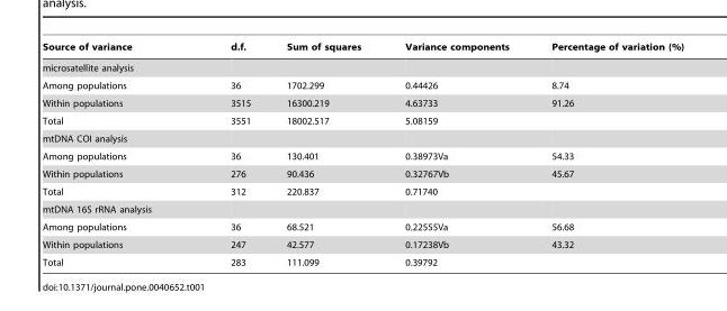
<table><thead><tr><td>Source of variance</td><td>d.f.</td><td>Sum of squares</td><td>Variance components</td><td>Percentage of variation (%)</td></tr></thead><tbody><tr><td colspan="5">microsatellite analysis</td></tr><tr><td>Among populations</td><td>36</td><td>1702.299</td><td>0.44426</td><td>8.74</td></tr><tr><td>Within populations</td><td>3515</td><td>16300.219</td><td>4.63733</td><td>91.26</td></tr><tr><td>Total</td><td>3551</td><td>18002.517</td><td>5.08159</td><td></td></tr><tr><td colspan="5">mtDNA COI analysis</td></tr><tr><td>Among populations</td><td>36</td><td>130.401</td><td>0.38973Va</td><td>54.33</td></tr><tr><td>Within populations</td><td>276</td><td>90.436</td><td>0.32767Vb</td><td>45.67</td></tr><tr><td>Total</td><td>312</td><td>220.837</td><td>0.71740</td><td></td></tr><tr><td colspan="5">mtDNA 16S rRNA analysis</td></tr><tr><td>Among populations</td><td>36</td><td>68.521</td><td>0.22555Va</td><td>56.68</td></tr><tr><td>Within populations</td><td>247</td><td>42.577</td><td>0.17238Vb</td><td>43.32</td></tr><tr><td>Total</td><td>283</td><td>111.099</td><td>0.39792</td><td></td></tr></tbody></table>